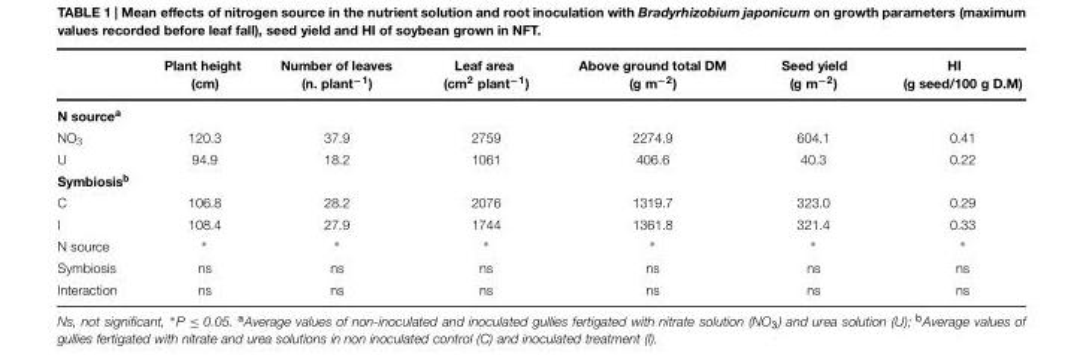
<table><thead><tr><td></td><td>Plant height (cm)</td><td>Number of leaves (n. plant<sup>−1</sup>)</td><td>Leaf area (cm<sup>2</sup> plant<sup>−1</sup>)</td><td>Above ground total DM (g m<sup>−2</sup>)</td><td>Seed yield (g m<sup>−2</sup>)</td><td>HI (g seed/100 g D.M)</td></tr></thead><tbody><tr><td colspan="7">N source<sup>a</sup></td></tr><tr><td>NO<sub>3</sub></td><td>120.3</td><td>37.9</td><td>2759</td><td>2274.9</td><td>604.1</td><td>0.41</td></tr><tr><td>U</td><td>94.9</td><td>18.2</td><td>1061</td><td>406.6</td><td>40.3</td><td>0.22</td></tr><tr><td colspan="7">Symbiosis<sup>b</sup></td></tr><tr><td>C</td><td>106.8</td><td>28.2</td><td>2076</td><td>1319.7</td><td>323.0</td><td>0.29</td></tr><tr><td>I</td><td>108.4</td><td>27.9</td><td>1744</td><td>1361.8</td><td>321.4</td><td>0.33</td></tr><tr><td>N source</td><td>∗</td><td>∗</td><td>∗</td><td>∗</td><td>∗</td><td>∗</td></tr><tr><td>Symbiosis</td><td>ns</td><td>ns</td><td>ns</td><td>ns</td><td>ns</td><td>ns</td></tr><tr><td>Interaction</td><td>ns</td><td>ns</td><td>ns</td><td>ns</td><td>ns</td><td>ns</td></tr></tbody></table>